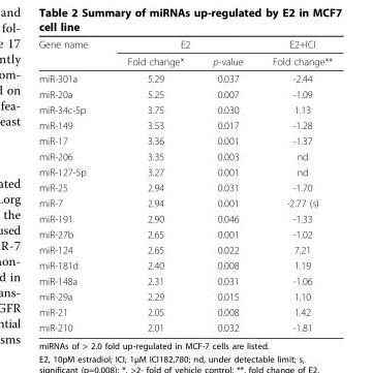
<table><thead><tr><td rowspan="2">Gene name</td><td colspan="2">E2</td><td rowspan="2">E2+ICI Fold change**</td></tr><tr><td>Fold change*</td><td>p-value</td></tr></thead><tbody><tr><td>miR-301a</td><td>5.29</td><td>0.037</td><td>-2.44</td></tr><tr><td>miR-20a</td><td>5.25</td><td>0.007</td><td>-1.09</td></tr><tr><td>miR-34c-5p</td><td>3.75</td><td>0.030</td><td>1.13</td></tr><tr><td>miR-149</td><td>3.53</td><td>0.017</td><td>-1.28</td></tr><tr><td>miR-17</td><td>3.36</td><td>0.001</td><td>-1.37</td></tr><tr><td>miR-206</td><td>3.35</td><td>0.003</td><td>nd</td></tr><tr><td>miR-127-5p</td><td>3.27</td><td>0.001</td><td>nd</td></tr><tr><td>miR-25</td><td>2.94</td><td>0.031</td><td>-1.70</td></tr><tr><td>miR-7</td><td>2.94</td><td>0.001</td><td>-2.77 (s)</td></tr><tr><td>miR-191</td><td>2.90</td><td>0.046</td><td>-1.33</td></tr><tr><td>miR-27b</td><td>2.65</td><td>0.001</td><td>-1.02</td></tr><tr><td>miR-124</td><td>2.65</td><td>0.022</td><td>7.21</td></tr><tr><td>miR-181d</td><td>2.40</td><td>0.008</td><td>1.19</td></tr><tr><td>miR-148a</td><td>2.31</td><td>0.031</td><td>-1.06</td></tr><tr><td>miR-29a</td><td>2.29</td><td>0.015</td><td>1.10</td></tr><tr><td>miR-21</td><td>2.05</td><td>0.008</td><td>1.42</td></tr><tr><td>miR-210</td><td>2.01</td><td>0.032</td><td>-1.81</td></tr></tbody></table>